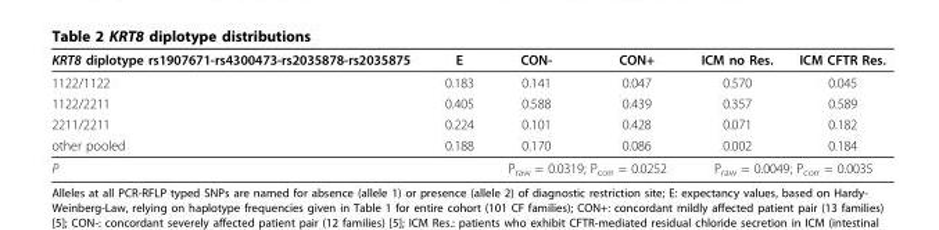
<table><thead><tr><td>KRT8 diplotype rs1907671-rs4300473-rs2035878-rs2035875</td><td>E</td><td>CON-</td><td>CON+</td><td>ICM no Res.</td><td>ICM CFTR Res.</td></tr></thead><tbody><tr><td>1122/1122</td><td>0.183</td><td>0.141</td><td>0.047</td><td>0.570</td><td>0.045</td></tr><tr><td>1122/2211</td><td>0.405</td><td>0.588</td><td>0.439</td><td>0.357</td><td>0.589</td></tr><tr><td>2211/2211</td><td>0.224</td><td>0.101</td><td>0.428</td><td>0.071</td><td>0.182</td></tr><tr><td>other pooled</td><td>0.188</td><td>0.170</td><td>0.086</td><td>0.002</td><td>0.184</td></tr><tr><td>P</td><td></td><td colspan="2">P<sub>raw</sub> = 0.0319; P<sub>corr</sub> = 0.0252</td><td colspan="2">P<sub>raw</sub> = 0.0049; P<sub>corr</sub> = 0.0035</td></tr></tbody></table>